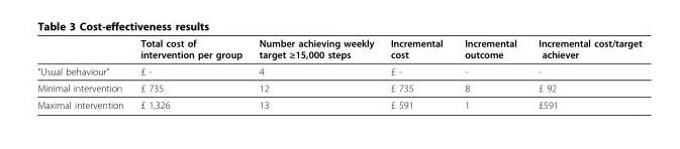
<table><thead><tr><td></td><td>Total cost of intervention per group</td><td>Number achieving weekly target ≥15,000 steps</td><td>Incremental cost</td><td>Incremental outcome</td><td>Incremental cost/target achiever</td></tr></thead><tbody><tr><td>“Usual behaviour”</td><td>£ -</td><td>4</td><td>£ -</td><td>-</td><td>-</td></tr><tr><td>Minimal intervention</td><td>£ 735</td><td>12</td><td>£ 735</td><td>8</td><td>£ 92</td></tr><tr><td>Maximal intervention</td><td>£ 1,326</td><td>13</td><td>£ 591</td><td>1</td><td>£591</td></tr></tbody></table>